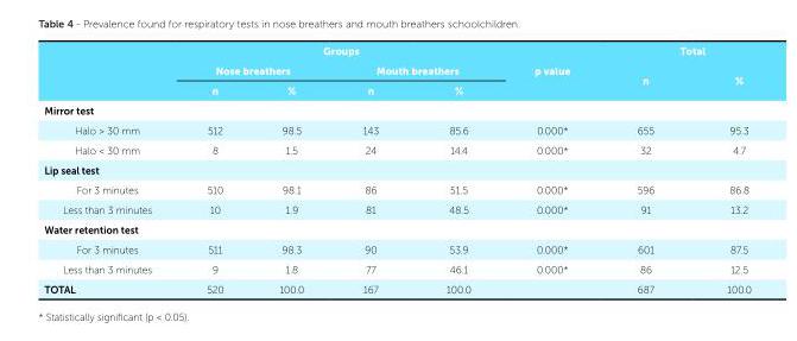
<table><thead><tr><td rowspan="3"></td><td colspan="4">Groups</td><td rowspan="3">p value</td><td colspan="2">Total</td></tr><tr><td colspan="2">Nose breathers</td><td colspan="2">Mouth breathers</td><td rowspan="2">n</td><td rowspan="2">%</td></tr><tr><td>n</td><td>%</td><td>n</td><td>%</td></tr></thead><tbody><tr><td colspan="8">Mirror test</td></tr><tr><td>Halo &gt; 30 mm</td><td>512</td><td>98.5</td><td>143</td><td>85.6</td><td>0.000*</td><td>655</td><td>95.3</td></tr><tr><td>Halo &lt; 30 mm</td><td>8</td><td>1.5</td><td>24</td><td>14.4</td><td>0.000*</td><td>32</td><td>4.7</td></tr><tr><td colspan="8">Lip seal test</td></tr><tr><td>For 3 minutes</td><td>510</td><td>98.1</td><td>86</td><td>51.5</td><td>0.000*</td><td>596</td><td>86.8</td></tr><tr><td>Less than 3 minutes</td><td>10</td><td>1.9</td><td>81</td><td>48.5</td><td>0.000*</td><td>91</td><td>13.2</td></tr><tr><td colspan="8">Water retention test</td></tr><tr><td>For 3 minutes</td><td>511</td><td>98.3</td><td>90</td><td>53.9</td><td>0.000*</td><td>601</td><td>87.5</td></tr><tr><td>Less than 3 minutes</td><td>9</td><td>1.8</td><td>77</td><td>46.1</td><td>0.000*</td><td>86</td><td>12.5</td></tr><tr><td>TOTAL</td><td>520</td><td>100.0</td><td>167</td><td>100.0</td><td></td><td>687</td><td>100.0</td></tr></tbody></table>